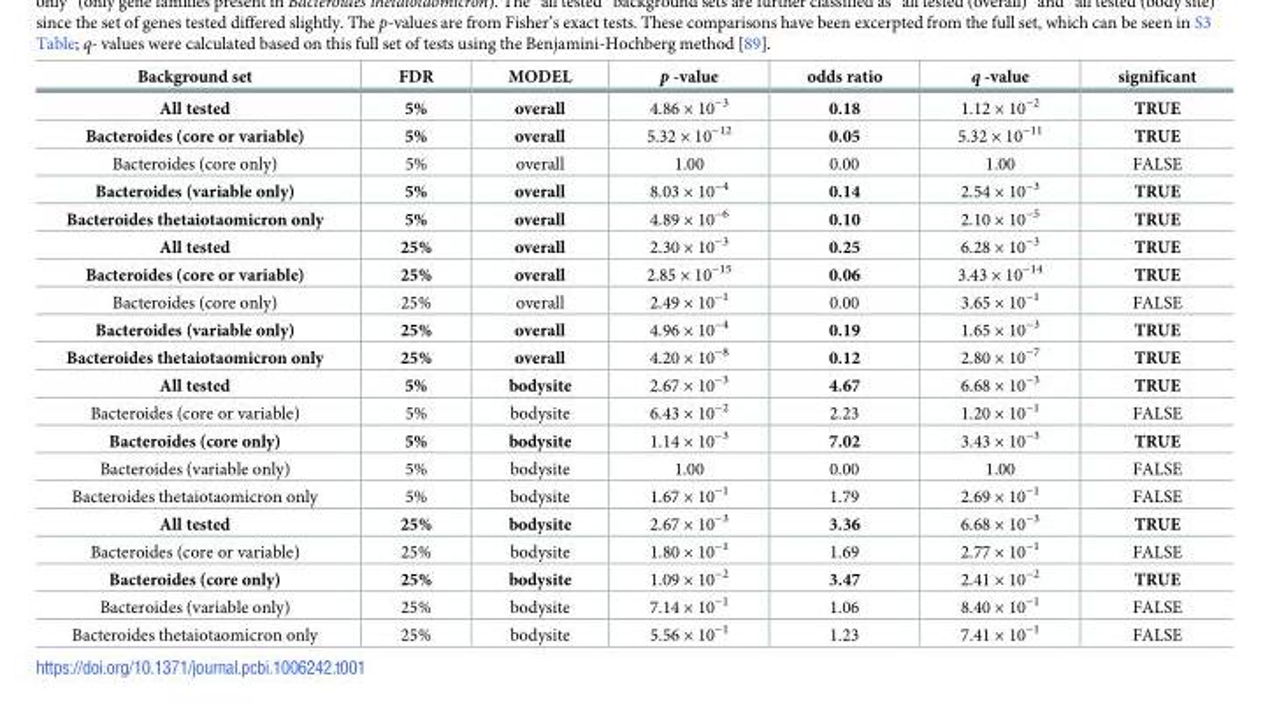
<table><thead><tr><td>Background set</td><td>FDR</td><td>MODEL</td><td>p -value</td><td>odds ratio</td><td>q -value</td><td>significant</td></tr></thead><tbody><tr><td>All tested</td><td>5%</td><td>overall</td><td>4.86 × 10<sup>−3</sup></td><td>0.18</td><td>1.12 × 10<sup>−2</sup></td><td>TRUE</td></tr><tr><td>Bacteroides (core or variable)</td><td>5%</td><td>overall</td><td>5.32 × 10<sup>−12</sup></td><td>0.05</td><td>5.32 × 10<sup>−11</sup></td><td>TRUE</td></tr><tr><td>Bacteroides (core only)</td><td>5%</td><td>overall</td><td>1.00</td><td>0.00</td><td>1.00</td><td>FALSE</td></tr><tr><td>Bacteroides (variable only)</td><td>5%</td><td>overall</td><td>8.03 × 10<sup>−4</sup></td><td>0.14</td><td>2.54 × 10<sup>−3</sup></td><td>TRUE</td></tr><tr><td>Bacteroides thetaiotaomicron only</td><td>5%</td><td>overall</td><td>4.89 × 10<sup>−6</sup></td><td>0.10</td><td>2.10 × 10<sup>−5</sup></td><td>TRUE</td></tr><tr><td>All tested</td><td>25%</td><td>overall</td><td>2.30 × 10<sup>−3</sup></td><td>0.25</td><td>6.28 × 10<sup>−3</sup></td><td>TRUE</td></tr><tr><td>Bacteroides (core or variable)</td><td>25%</td><td>overall</td><td>2.85 × 10<sup>−15</sup></td><td>0.06</td><td>3.43 × 10<sup>−14</sup></td><td>TRUE</td></tr><tr><td>Bacteroides (core only)</td><td>25%</td><td>overall</td><td>2.49 × 10<sup>−1</sup></td><td>0.00</td><td>3.65 × 10<sup>−1</sup></td><td>FALSE</td></tr><tr><td>Bacteroides (variable only)</td><td>25%</td><td>overall</td><td>4.96 × 10<sup>−4</sup></td><td>0.19</td><td>1.65 × 10<sup>−3</sup></td><td>TRUE</td></tr><tr><td>Bacteroides thetaiotaomicron only</td><td>25%</td><td>overall</td><td>4.20 × 10<sup>−8</sup></td><td>0.12</td><td>2.80 × 10<sup>−7</sup></td><td>TRUE</td></tr><tr><td>All tested</td><td>5%</td><td>bodysite</td><td>2.67 × 10<sup>−3</sup></td><td>4.67</td><td>6.68 × 10<sup>−3</sup></td><td>TRUE</td></tr><tr><td>Bacteroides (core or variable)</td><td>5%</td><td>bodysite</td><td>6.43 × 10<sup>−2</sup></td><td>2.23</td><td>1.20 × 10<sup>−1</sup></td><td>FALSE</td></tr><tr><td>Bacteroides (core only)</td><td>5%</td><td>bodysite</td><td>1.14 × 10<sup>−3</sup></td><td>7.02</td><td>3.43 × 10<sup>−3</sup></td><td>TRUE</td></tr><tr><td>Bacteroides (variable only)</td><td>5%</td><td>bodysite</td><td>1.00</td><td>0.00</td><td>1.00</td><td>FALSE</td></tr><tr><td>Bacteroides thetaiotaomicron only</td><td>5%</td><td>bodysite</td><td>1.67 × 10<sup>−1</sup></td><td>1.79</td><td>2.69 × 10<sup>−1</sup></td><td>FALSE</td></tr><tr><td>All tested</td><td>25%</td><td>bodysite</td><td>2.67 × 10<sup>−3</sup></td><td>3.36</td><td>6.68 × 10<sup>−3</sup></td><td>TRUE</td></tr><tr><td>Bacteroides (core or variable)</td><td>25%</td><td>bodysite</td><td>1.80 × 10<sup>−1</sup></td><td>1.69</td><td>2.77 × 10<sup>−1</sup></td><td>FALSE</td></tr><tr><td>Bacteroides (core only)</td><td>25%</td><td>bodysite</td><td>1.09 × 10<sup>−2</sup></td><td>3.47</td><td>2.41 × 10<sup>−2</sup></td><td>TRUE</td></tr><tr><td>Bacteroides (variable only)</td><td>25%</td><td>bodysite</td><td>7.14 × 10<sup>−1</sup></td><td>1.06</td><td>8.40 × 10<sup>−1</sup></td><td>FALSE</td></tr><tr><td>Bacteroides thetaiotaomicron only</td><td>25%</td><td>bodysite</td><td>5.56 × 10<sup>−1</sup></td><td>1.23</td><td>7.41 × 10<sup>−1</sup></td><td>FALSE</td></tr></tbody></table>